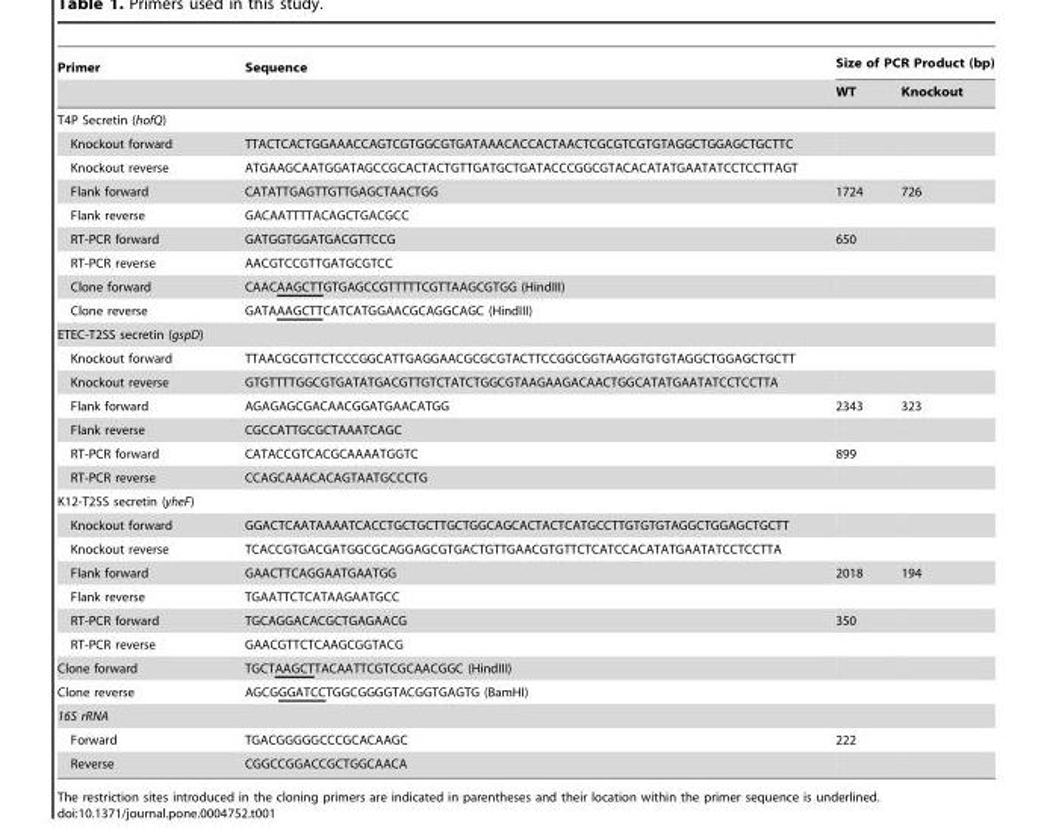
<table><thead><tr><td rowspan="2">Primer</td><td rowspan="2">Sequence</td><td colspan="2">Size of PCR Product (bp)</td></tr><tr><td>WT</td><td>Knockout</td></tr></thead><tbody><tr><td colspan="4">T4P Secretin (hofQ)</td></tr><tr><td>Knockout forward</td><td>TTACTCACTGGAAACCAGTCGTGGCGTGATAAACACCACTAACTCGCGTCGTGTAGGCTGGAGCTGCTTC</td><td></td><td></td></tr><tr><td>Knockout reverse</td><td>ATGAAGCAATGGATAGCCGCACTACTGTTGATGCTGATACCCGGCGTACACATATGAATATCCTCCTTAGT</td><td></td><td></td></tr><tr><td>Flank forward</td><td>CATATTGAGTTGTTGAGCTAACTGG</td><td>1724</td><td>726</td></tr><tr><td>Flank reverse</td><td>GACAATTTTACAGCTGACGCC</td><td></td><td></td></tr><tr><td>RT-PCR forward</td><td>GATGGTGGATGACGTTCCG</td><td>650</td><td></td></tr><tr><td>RT-PCR reverse</td><td>AACGTCCGTTGATGCGTCC</td><td></td><td></td></tr><tr><td>Clone forward</td><td>CAACAAGCTTGTGAGCCGTTTTTCGTTAAGCGTGG (HindIII)</td><td></td><td></td></tr><tr><td>Clone reverse</td><td>GATAAAGCTTCATCATGGAACGCAGGCAGC (HindIII)</td><td></td><td></td></tr><tr><td colspan="4">ETEC-T2SS secretin (gspD)</td></tr><tr><td>Knockout forward</td><td>TTAACGCGTTCTCCCGGCATTGAGGAACGCGCGTACTTCCGGCGGTAAGGTGTGTAGGCTGGAGCTGCTT</td><td></td><td></td></tr><tr><td>Knockout reverse</td><td>GTGTTTTGGCGTGATATGACGTTGTCTATCTGGCGTAAGAAGACAACTGGCATATGAATATCCTCCTTA</td><td></td><td></td></tr><tr><td>Flank forward</td><td>AGAGAGCGACAACGGATGAACATGG</td><td>2343</td><td>323</td></tr><tr><td>Flank reverse</td><td>CGCCATTGCGCTAAATCAGC</td><td></td><td></td></tr><tr><td>RT-PCR forward</td><td>CATACCGTCACGCAAAATGGTC</td><td>899</td><td></td></tr><tr><td>RT-PCR reverse</td><td>CCAGCAAACACAGTAATGCCCTG</td><td></td><td></td></tr><tr><td colspan="4">K12-T2SS secretin (yheF)</td></tr><tr><td>Knockout forward</td><td>GGACTCAATAAAATCACCTGCTGCTTGCTGGCAGCACTACTCATGCCTTGTGTGTAGGCTGGAGCTGCTT</td><td></td><td></td></tr><tr><td>Knockout reverse</td><td>TCACCGTGACGATGGCGCAGGAGCGTGACTGTTGAACGTGTTCTCATCCACATATGAATATCCTCCTTA</td><td></td><td></td></tr><tr><td>Flank forward</td><td>GAACTTCAGGAATGAATGG</td><td>2018</td><td>194</td></tr><tr><td>Flank reverse</td><td>TGAATTCTCATAAGAATGCC</td><td></td><td></td></tr><tr><td>RT-PCR forward</td><td>TGCAGGACACGCTGAGAACG</td><td>350</td><td></td></tr><tr><td>RT-PCR reverse</td><td>GAACGTTCTCAAGCGGTACG</td><td></td><td></td></tr><tr><td>Clone forward</td><td>TGCTAAGCTTACAATTCGTCGCAACGGC (HindIII)</td><td></td><td></td></tr><tr><td>Clone reverse</td><td>AGCGGGATCCTGGCGGGGTACGGTGAGTG (BamHI)</td><td></td><td></td></tr><tr><td colspan="4">16S rRNA</td></tr><tr><td>Forward</td><td>TGACGGGGGCCCGCACAAGC</td><td>222</td><td></td></tr><tr><td>Reverse</td><td>CGGCCGGACCGCTGGCAACA</td><td></td><td></td></tr></tbody></table>